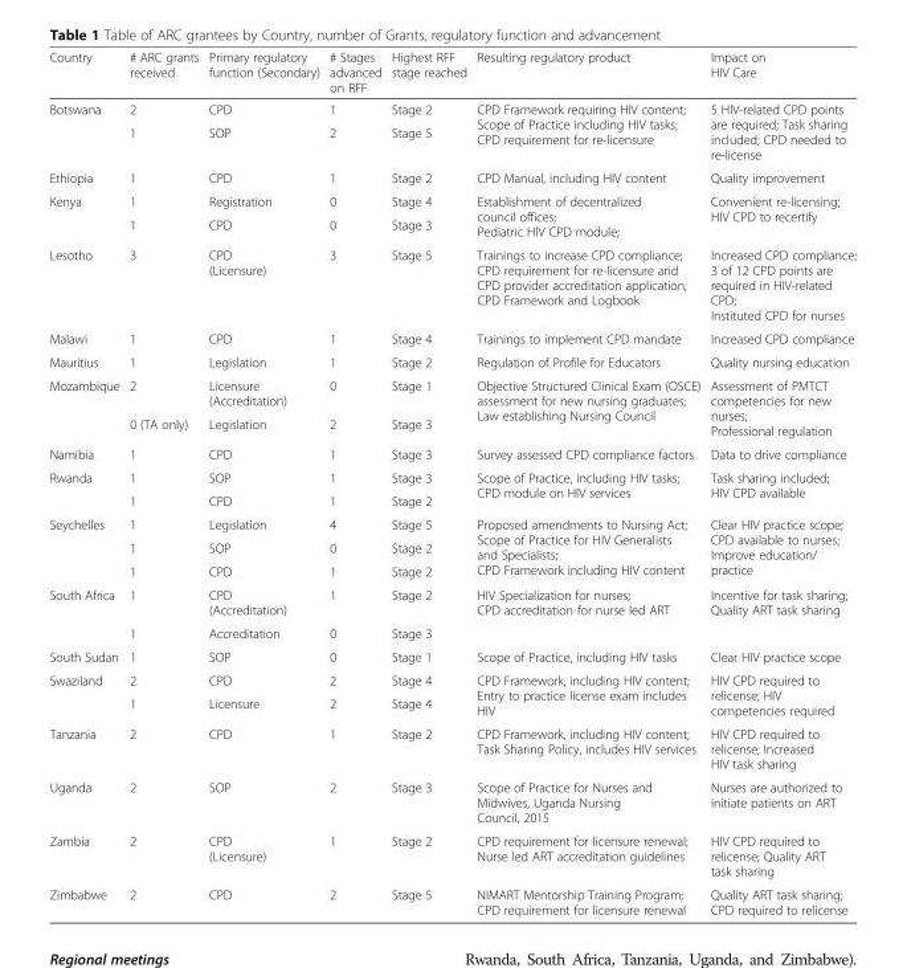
<table><thead><tr><td>Country</td><td># ARC grants received</td><td>Primary regulatory function (Secondary)</td><td># Stages advanced on RFF</td><td>Highest RFF stage reached</td><td>Resulting regulatory product</td><td>Impact on HIV Care</td></tr></thead><tbody><tr><td rowspan="2">Botswana</td><td>2</td><td>CPD</td><td>1</td><td>Stage 2</td><td rowspan="2">CPD Framework requiring HIV content; Scope of Practice including HIV tasks; CPD requirement for re-licensure</td><td rowspan="2">5 HIV-related CPD points are required; Task sharing included; CPD needed to re-license</td></tr><tr><td>1</td><td>SOP</td><td>2</td><td>Stage 5</td></tr><tr><td>Ethiopia</td><td>1</td><td>CPD</td><td>1</td><td>Stage 2</td><td>CPD Manual, including HIV content</td><td>Quality improvement</td></tr><tr><td rowspan="2">Kenya</td><td>1</td><td>Registration</td><td>0</td><td>Stage 4</td><td rowspan="2">Establishment of decentralized council offices; Pediatric HIV CPD module;</td><td rowspan="2">Convenient re-licensing; HIV CPD to recertify</td></tr><tr><td>1</td><td>CPD</td><td>0</td><td>Stage 3</td></tr><tr><td>Lesotho</td><td>3</td><td>CPD (Licensure)</td><td>3</td><td>Stage 5</td><td>Trainings to increase CPD compliance; CPD requirement for re-licensure and CPD provider accreditation application; CPD Framework and Logbook</td><td>Increased CPD compliance; 3 of 12 CPD points are required in HIV-related CPD; Instituted CPD for nurses</td></tr><tr><td>Malawi</td><td>1</td><td>CPD</td><td>1</td><td>Stage 4</td><td>Trainings to implement CPD mandate</td><td>Increased CPD compliance</td></tr><tr><td>Mauritius</td><td>1</td><td>Legislation</td><td>1</td><td>Stage 2</td><td>Regulation of Profile for Educators</td><td>Quality nursing education</td></tr><tr><td rowspan="2">Mozambique</td><td>2</td><td>Licensure (Accreditation)</td><td>0</td><td>Stage 1</td><td rowspan="2">Objective Structured Clinical Exam (OSCE) assessment for new nursing graduates; Law establishing Nursing Council</td><td rowspan="2">Assessment of PMTCT competencies for new nurses; Professional regulation</td></tr><tr><td>0 (TA only)</td><td>Legislation</td><td>2</td><td>Stage 3</td></tr><tr><td>Namibia</td><td>1</td><td>CPD</td><td>1</td><td>Stage 3</td><td>Survey assessed CPD compliance factors</td><td>Data to drive compliance</td></tr><tr><td rowspan="2">Rwanda</td><td>1</td><td>SOP</td><td>1</td><td>Stage 3</td><td rowspan="2">Scope of Practice, including HIV tasks; CPD module on HIV services</td><td rowspan="2">Task sharing included; HIV CPD available</td></tr><tr><td>1</td><td>CPD</td><td>1</td><td>Stage 2</td></tr><tr><td rowspan="3">Seychelles</td><td>1</td><td>Legislation</td><td>4</td><td>Stage 5</td><td rowspan="3">Proposed amendments to Nursing Act; Scope of Practice for HIV Generalists and Specialists; CPD Framework including HIV content</td><td rowspan="3">Clear HIV practice scope; CPD available to nurses; Improve education/ practice</td></tr><tr><td>1</td><td>SOP</td><td>0</td><td>Stage 2</td></tr><tr><td>1</td><td>CPD</td><td>1</td><td>Stage 2</td></tr><tr><td rowspan="2">South Africa</td><td>1</td><td>CPD (Accreditation)</td><td>1</td><td>Stage 2</td><td rowspan="2">HIV Specialization for nurses; CPD accreditation for nurse led ART</td><td rowspan="2">Incentive for task sharing; Quality ART task sharing</td></tr><tr><td>1</td><td>Accreditation</td><td>0</td><td>Stage 3</td></tr><tr><td>South Sudan</td><td>1</td><td>SOP</td><td>0</td><td>Stage 1</td><td>Scope of Practice, including HIV tasks</td><td>Clear HIV practice scope</td></tr><tr><td rowspan="2">Swaziland</td><td>2</td><td>CPD</td><td>2</td><td>Stage 4</td><td rowspan="2">CPD Framework, including HIV content; Entry to practice license exam includes HIV</td><td rowspan="2">HIV CPD required to relicense; HIV competencies required</td></tr><tr><td>1</td><td>Licensure</td><td>2</td><td>Stage 4</td></tr><tr><td>Tanzania</td><td>2</td><td>CPD</td><td>1</td><td>Stage 2</td><td>CPD Framework, including HIV content; Task Sharing Policy, includes HIV services</td><td>HIV CPD required to relicense; Increased HIV task sharing</td></tr><tr><td>Uganda</td><td>2</td><td>SOP</td><td>2</td><td>Stage 3</td><td>Scope of Practice for Nurses and Midwives, Uganda Nursing Council, 2015</td><td>Nurses are authorized to initiate patients on ART</td></tr><tr><td>Zambia</td><td>2</td><td>CPD (Licensure)</td><td>1</td><td>Stage 2</td><td>CPD requirement for licensure renewal; Nurse led ART accreditation guidelines</td><td>HIV CPD required to relicense; Quality ART task sharing</td></tr><tr><td>Zimbabwe</td><td>2</td><td>CPD</td><td>2</td><td>Stage 5</td><td>NIMART Mentorship Training Program; CPD requirement for licensure renewal</td><td>Quality ART task sharing; CPD required to relicense</td></tr></tbody></table>